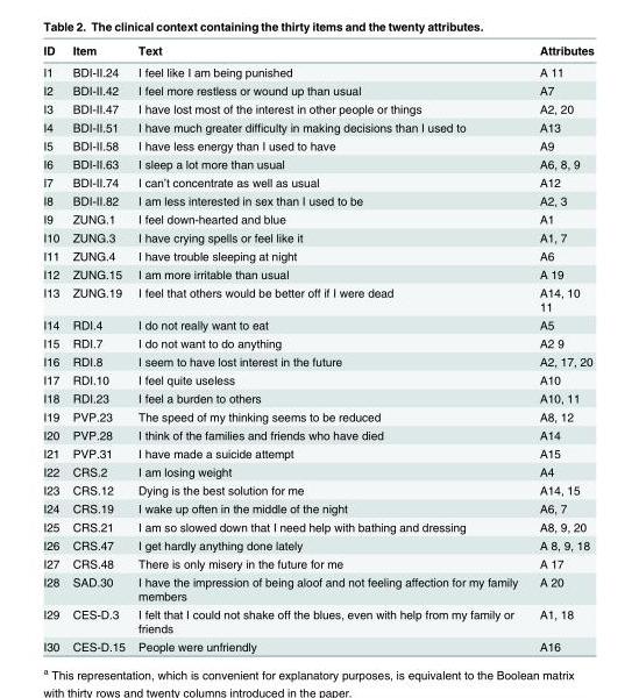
<table><thead><tr><td>ID</td><td>Item</td><td>Text</td><td>Attributes</td></tr></thead><tbody><tr><td>I1</td><td>BDI-II.24</td><td>I feel like I am being punished</td><td>A 11</td></tr><tr><td>I2</td><td>BDI-II.42</td><td>I feel more restless or wound up than usual</td><td>A7</td></tr><tr><td>I3</td><td>BDI-II.47</td><td>I have lost most of the interest in other people or things</td><td>A2, 20</td></tr><tr><td>I4</td><td>BDI-II.51</td><td>I have much greater difficulty in making decisions than I used to</td><td>A13</td></tr><tr><td>I5</td><td>BDI-II.58</td><td>I have less energy than I used to have</td><td>A9</td></tr><tr><td>I6</td><td>BDI-II.63</td><td>I sleep a lot more than usual</td><td>A6, 8, 9</td></tr><tr><td>I7</td><td>BDI-II.74</td><td>I can’t concentrate as well as usual</td><td>A12</td></tr><tr><td>I8</td><td>BDI-II.82</td><td>I am less interested in sex than I used to be</td><td>A2, 3</td></tr><tr><td>I9</td><td>ZUNG.1</td><td>I feel down-hearted and blue</td><td>A1</td></tr><tr><td>I10</td><td>ZUNG.3</td><td>I have crying spells or feel like it</td><td>A1, 7</td></tr><tr><td>I11</td><td>ZUNG.4</td><td>I have trouble sleeping at night</td><td>A6</td></tr><tr><td>I12</td><td>ZUNG.15</td><td>I am more irritable than usual</td><td>A 19</td></tr><tr><td>I13</td><td>ZUNG.19</td><td>I feel that others would be better off if I were dead</td><td>A14, 10 11</td></tr><tr><td>I14</td><td>RDI.4</td><td>I do not really want to eat</td><td>A5</td></tr><tr><td>I15</td><td>RDI.7</td><td>I do not want to do anything</td><td>A2 9</td></tr><tr><td>I16</td><td>RDI.8</td><td>I seem to have lost interest in the future</td><td>A2, 17, 20</td></tr><tr><td>I17</td><td>RDI.10</td><td>I feel quite useless</td><td>A10</td></tr><tr><td>I18</td><td>RDI.23</td><td>I feel a burden to others</td><td>A10, 11</td></tr><tr><td>I19</td><td>PVP.23</td><td>The speed of my thinking seems to be reduced</td><td>A8, 12</td></tr><tr><td>I20</td><td>PVP.28</td><td>I think of the families and friends who have died</td><td>A14</td></tr><tr><td>I21</td><td>PVP.31</td><td>I have made a suicide attempt</td><td>A15</td></tr><tr><td>I22</td><td>CRS.2</td><td>I am losing weight</td><td>A4</td></tr><tr><td>I23</td><td>CRS.12</td><td>Dying is the best solution for me</td><td>A14, 15</td></tr><tr><td>I24</td><td>CRS.19</td><td>I wake up often in the middle of the night</td><td>A6, 7</td></tr><tr><td>I25</td><td>CRS.21</td><td>I am so slowed down that I need help with bathing and dressing</td><td>A8, 9, 20</td></tr><tr><td>I26</td><td>CRS.47</td><td>I get hardly anything done lately</td><td>A 8, 9, 18</td></tr><tr><td>I27</td><td>CRS.48</td><td>There is only misery in the future for me</td><td>A 17</td></tr><tr><td>I28</td><td>SAD.30</td><td>I have the impression of being aloof and not feeling affection for my family members</td><td>A 20</td></tr><tr><td>I29</td><td>CES-D.3</td><td>I felt that I could not shake off the blues, even with help from my family or friends</td><td>A1, 18</td></tr><tr><td>I30</td><td>CES-D.15</td><td>People were unfriendly</td><td>A16</td></tr></tbody></table>